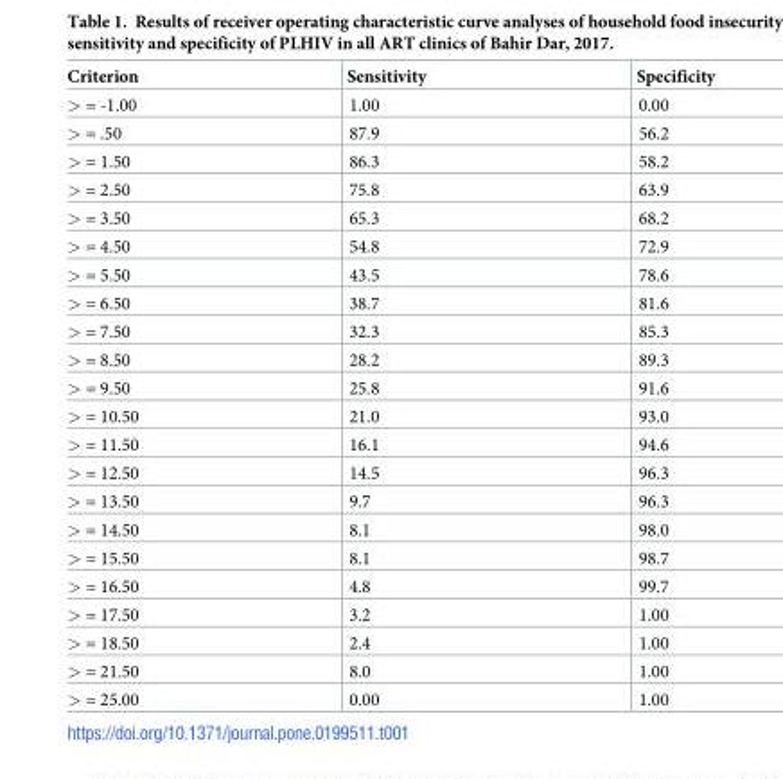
<table><thead><tr><td>Criterion</td><td>Sensitivity</td><td>Specificity</td></tr></thead><tbody><tr><td>&gt; = -1.00</td><td>1.00</td><td>0.00</td></tr><tr><td>&gt; = .50</td><td>87.9</td><td>56.2</td></tr><tr><td>&gt; = 1.50</td><td>86.3</td><td>58.2</td></tr><tr><td>&gt; = 2.50</td><td>75.8</td><td>63.9</td></tr><tr><td>&gt; = 3.50</td><td>65.3</td><td>68.2</td></tr><tr><td>&gt; = 4.50</td><td>54.8</td><td>72.9</td></tr><tr><td>&gt; = 5.50</td><td>43.5</td><td>78.6</td></tr><tr><td>&gt; = 6.50</td><td>38.7</td><td>81.6</td></tr><tr><td>&gt; = 7.50</td><td>32.3</td><td>85.3</td></tr><tr><td>&gt; = 8.50</td><td>28.2</td><td>89.3</td></tr><tr><td>&gt; = 9.50</td><td>25.8</td><td>91.6</td></tr><tr><td>&gt; = 10.50</td><td>21.0</td><td>93.0</td></tr><tr><td>&gt; = 11.50</td><td>16.1</td><td>94.6</td></tr><tr><td>&gt; = 12.50</td><td>14.5</td><td>96.3</td></tr><tr><td>&gt; = 13.50</td><td>9.7</td><td>96.3</td></tr><tr><td>&gt; = 14.50</td><td>8.1</td><td>98.0</td></tr><tr><td>&gt; = 15.50</td><td>8.1</td><td>98.7</td></tr><tr><td>&gt; = 16.50</td><td>4.8</td><td>99.7</td></tr><tr><td>&gt; = 17.50</td><td>3.2</td><td>1.00</td></tr><tr><td>&gt; = 18.50</td><td>2.4</td><td>1.00</td></tr><tr><td>&gt; = 21.50</td><td>8.0</td><td>1.00</td></tr><tr><td>&gt; = 25.00</td><td>0.00</td><td>1.00</td></tr></tbody></table>